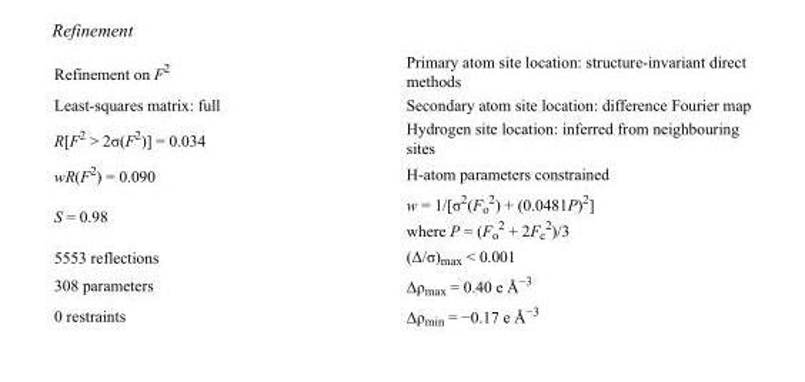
<table><tbody><tr><td>Refinement on F<sup>2</sup></td><td>Primary atom site location: structure-invariant direct methods</td></tr><tr><td>Least-squares matrix: full</td><td>Secondary atom site location: difference Fourier map</td></tr><tr><td>R[F<sup>2</sup> &gt; 2σ(F<sup>2</sup>)] = 0.034</td><td>Hydrogen site location: inferred from neighbouring sites</td></tr><tr><td>wR(F<sup>2</sup>) = 0.090</td><td>H-atom parameters constrained</td></tr><tr><td>S = 0.98</td><td>w = 1/[σ<sup>2</sup>(F<sub>o</sub> <sup>2</sup>) + (0.0481P)<sup>2</sup>] where P = (F<sub>o</sub> <sup>2</sup> + 2F<sub>c</sub> <sup>2</sup>)/3</td></tr><tr><td>5553 reflections</td><td>(Δ/σ)<sub>max</sub> &lt; 0.001</td></tr><tr><td>308 parameters</td><td>Δρ<sub>max</sub> = 0.40 e Å<sup>−3</sup></td></tr><tr><td>0 restraints</td><td>Δρ<sub>min</sub> = −0.17 e Å<sup>−3</sup></td></tr></tbody></table>